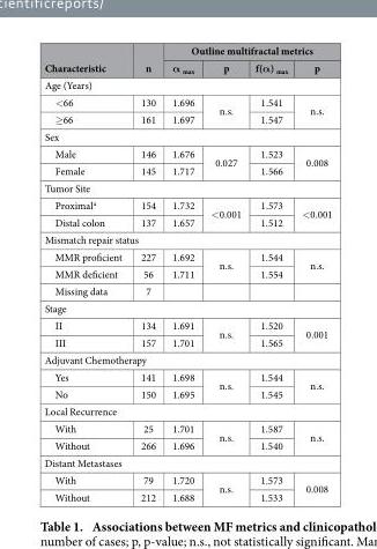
<table><thead><tr><td rowspan="2">Characteristic</td><td rowspan="2">n</td><td colspan="4">Outline multifractal metrics</td></tr><tr><td>α <sub>max</sub></td><td>p</td><td>f(α) <sub>max</sub></td><td>p</td></tr></thead><tbody><tr><td colspan="6">Age (Years)</td></tr><tr><td>&lt; 66</td><td>130</td><td>1.696</td><td rowspan="2">n.s.</td><td>1.541</td><td rowspan="2">n.s.</td></tr><tr><td>≥ 66</td><td>161</td><td>1.697</td><td>1.547</td></tr><tr><td colspan="6">Sex</td></tr><tr><td>Male</td><td>146</td><td>1.676</td><td rowspan="2">0.027</td><td>1.523</td><td rowspan="2">0.008</td></tr><tr><td>Female</td><td>145</td><td>1.717</td><td>1.566</td></tr><tr><td colspan="6">Tumor Site</td></tr><tr><td>Proximal<sup>a</sup></td><td>154</td><td>1.732</td><td rowspan="2">&lt; 0.001</td><td>1.573</td><td rowspan="2">&lt; 0.001</td></tr><tr><td>Distal colon</td><td>137</td><td>1.657</td><td>1.512</td></tr><tr><td colspan="6">Mismatch repair status</td></tr><tr><td>MMR proficient</td><td>227</td><td>1.692</td><td rowspan="2">n.s.</td><td>1.544</td><td rowspan="2">n.s.</td></tr><tr><td>MMR deficient</td><td>56</td><td>1.711</td><td>1.554</td></tr><tr><td>Missing data</td><td>7</td><td></td><td></td><td></td><td></td></tr><tr><td colspan="6">Stage</td></tr><tr><td>II</td><td>134</td><td>1.691</td><td rowspan="2">n.s.</td><td>1.520</td><td rowspan="2">0.001</td></tr><tr><td>III</td><td>157</td><td>1.701</td><td>1.565</td></tr><tr><td colspan="6">Adjuvant Chemotherapy</td></tr><tr><td>Yes</td><td>141</td><td>1.698</td><td rowspan="2">n.s.</td><td>1.544</td><td rowspan="2">n.s.</td></tr><tr><td>No</td><td>150</td><td>1.695</td><td>1.545</td></tr><tr><td colspan="6">Local Recurrence</td></tr><tr><td>With</td><td>25</td><td>1.701</td><td rowspan="2">n.s.</td><td>1.587</td><td rowspan="2">n.s.</td></tr><tr><td>Without</td><td>266</td><td>1.696</td><td>1.540</td></tr><tr><td colspan="6">Distant Metastases</td></tr><tr><td>With</td><td>79</td><td>1.720</td><td rowspan="2">n.s.</td><td>1.573</td><td rowspan="2">0.008</td></tr><tr><td>Without</td><td>212</td><td>1.688</td><td>1.533</td></tr></tbody></table>